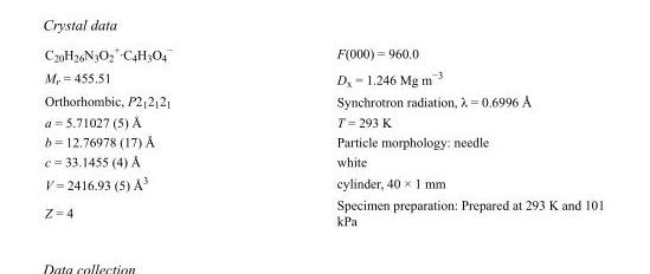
<table><tbody><tr><td>C<sub>20</sub>H<sub>26</sub>N<sub>3</sub>O<sub>2</sub> <sup>+</sup>·C<sub>4</sub>H<sub>3</sub>O<sub>4</sub> <sup>−</sup></td><td>F(000) = 960.0</td></tr><tr><td>M<sub>r</sub> = 455.51</td><td>D<sub>x</sub> = 1.246 Mg m<sup>−3</sup></td></tr><tr><td>Orthorhombic, P2<sub>1</sub>2<sub>1</sub>2<sub>1</sub></td><td>Synchrotron radiation, λ = 0.6996 Å</td></tr><tr><td>a = 5.71027 (5) Å</td><td>T = 293 K</td></tr><tr><td>b = 12.76978 (17) Å</td><td>Particle morphology: needle</td></tr><tr><td>c = 33.1455 (4) Å</td><td>white</td></tr><tr><td>V = 2416.93 (5) Å<sup>3</sup></td><td>cylinder, 40 × 1 mm</td></tr><tr><td>Z = 4</td><td>Specimen preparation: Prepared at 293 K and 101 kPa</td></tr></tbody></table>